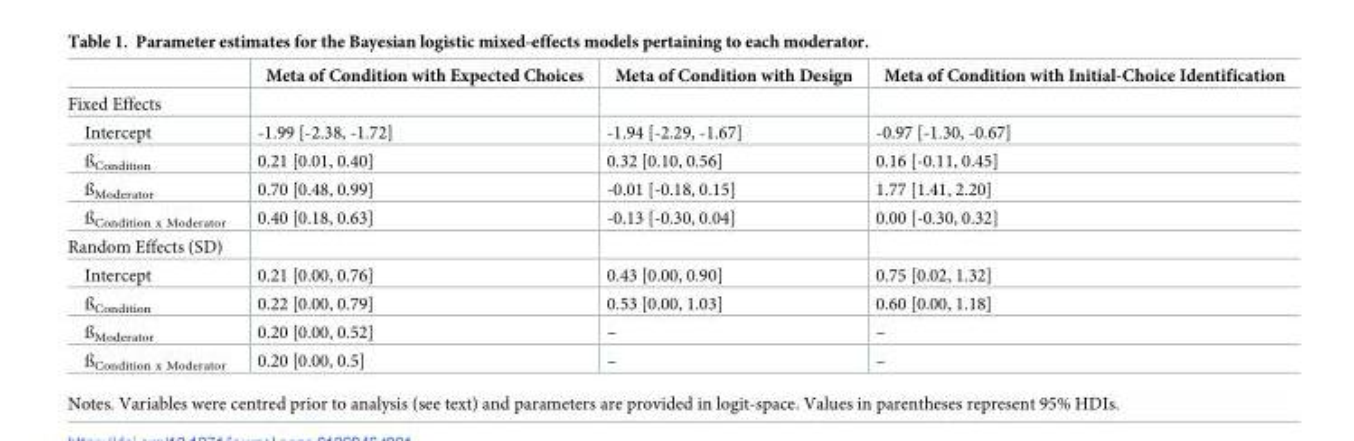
<table><thead><tr><td></td><td>Meta of Condition with Expected Choices</td><td>Meta of Condition with Design</td><td>Meta of Condition with Initial-Choice Identification</td></tr></thead><tbody><tr><td colspan="4">Fixed Effects</td></tr><tr><td>Intercept</td><td>-1.99 [-2.38, -1.72]</td><td>-1.94 [-2.29, -1.67]</td><td>-0.97 [-1.30, -0.67]</td></tr><tr><td>ß<sub>Condition</sub></td><td>0.21 [0.01, 0.40]</td><td>0.32 [0.10, 0.56]</td><td>0.16 [-0.11, 0.45]</td></tr><tr><td>ß<sub>Moderator</sub></td><td>0.70 [0.48, 0.99]</td><td>-0.01 [-0.18, 0.15]</td><td>1.77 [1.41, 2.20]</td></tr><tr><td>ß<sub>Condition x Moderator</sub></td><td>0.40 [0.18, 0.63]</td><td>-0.13 [-0.30, 0.04]</td><td>0.00 [-0.30, 0.32]</td></tr><tr><td colspan="4">Random Effects (SD)</td></tr><tr><td>Intercept</td><td>0.21 [0.00, 0.76]</td><td>0.43 [0.00, 0.90]</td><td>0.75 [0.02, 1.32]</td></tr><tr><td>ß<sub>Condition</sub></td><td>0.22 [0.00, 0.79]</td><td>0.53 [0.00, 1.03]</td><td>0.60 [0.00, 1.18]</td></tr><tr><td>ß<sub>Moderator</sub></td><td>0.20 [0.00, 0.52]</td><td>–</td><td>–</td></tr><tr><td>ß<sub>Condition x Moderator</sub></td><td>0.20 [0.00, 0.5]</td><td>–</td><td>–</td></tr></tbody></table>